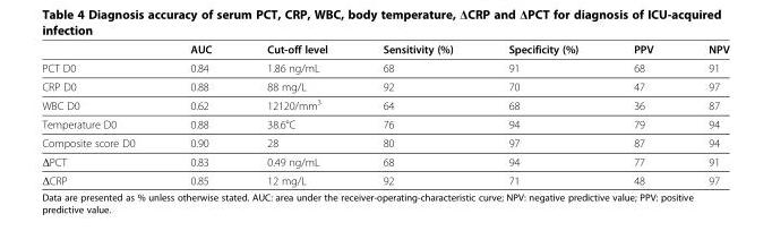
<table><thead><tr><td></td><td>AUC</td><td>Cut-off level</td><td>Sensitivity (%)</td><td>Specificity (%)</td><td>PPV</td><td>NPV</td></tr></thead><tbody><tr><td>PCT D0</td><td>0.84</td><td>1.86 ng/mL</td><td>68</td><td>91</td><td>68</td><td>91</td></tr><tr><td>CRP D0</td><td>0.88</td><td>88 mg/L</td><td>92</td><td>70</td><td>47</td><td>97</td></tr><tr><td>WBC D0</td><td>0.62</td><td>12120/mm<sup>3</sup></td><td>64</td><td>68</td><td>36</td><td>87</td></tr><tr><td>Temperature D0</td><td>0.88</td><td>38.6°C</td><td>76</td><td>94</td><td>79</td><td>94</td></tr><tr><td>Composite score D0</td><td>0.90</td><td>28</td><td>80</td><td>97</td><td>87</td><td>94</td></tr><tr><td>ΔPCT</td><td>0.83</td><td>0.49 ng/mL</td><td>68</td><td>94</td><td>77</td><td>91</td></tr><tr><td>ΔCRP</td><td>0.85</td><td>12 mg/L</td><td>92</td><td>71</td><td>48</td><td>97</td></tr></tbody></table>